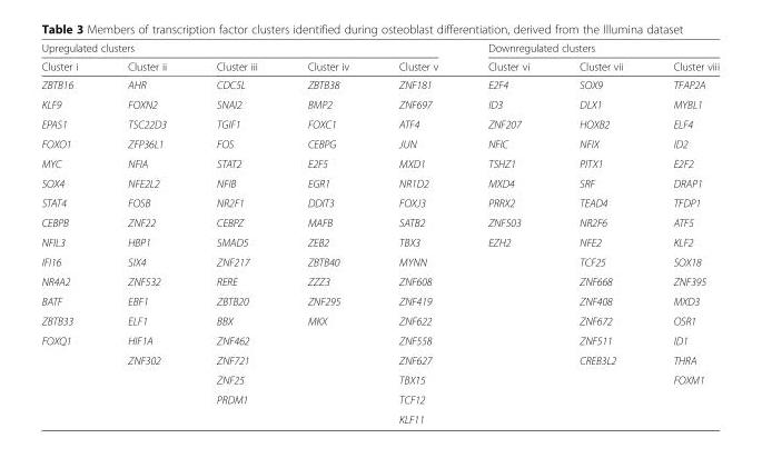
<table><thead><tr><td colspan="5">Upregulated clusters</td><td colspan="3">Downregulated clusters</td></tr><tr><td>Cluster i</td><td>Cluster ii</td><td>Cluster iii</td><td>Cluster iv</td><td>Cluster v</td><td>Cluster vi</td><td>Cluster vii</td><td>Cluster viii</td></tr></thead><tbody><tr><td>ZBTB16</td><td>AHR</td><td>CDC5L</td><td>ZBTB38</td><td>ZNF181</td><td>E2F4</td><td>SOX9</td><td>TFAP2A</td></tr><tr><td>KLF9</td><td>FOXN2</td><td>SNAI2</td><td>BMP2</td><td>ZNF697</td><td>ID3</td><td>DLX1</td><td>MYBL1</td></tr><tr><td>EPAS1</td><td>TSC22D3</td><td>TGIF1</td><td>FOXC1</td><td>ATF4</td><td>ZNF207</td><td>HOXB2</td><td>ELF4</td></tr><tr><td>FOXO1</td><td>ZFP36L1</td><td>FOS</td><td>CEBPG</td><td>JUN</td><td>NFIC</td><td>NFIX</td><td>ID2</td></tr><tr><td>MYC</td><td>NFIA</td><td>STAT2</td><td>E2F5</td><td>MXD1</td><td>TSHZ1</td><td>PITX1</td><td>E2F2</td></tr><tr><td>SOX4</td><td>NFE2L2</td><td>NFIB</td><td>EGR1</td><td>NR1D2</td><td>MXD4</td><td>SRF</td><td>DRAP1</td></tr><tr><td>STAT4</td><td>FOSB</td><td>NR2F1</td><td>DDIT3</td><td>FOXJ3</td><td>PRRX2</td><td>TEAD4</td><td>TFDP1</td></tr><tr><td>CEBPB</td><td>ZNF22</td><td>CEBPZ</td><td>MAFB</td><td>SATB2</td><td>ZNF503</td><td>NR2F6</td><td>ATF5</td></tr><tr><td>NFIL3</td><td>HBP1</td><td>SMAD5</td><td>ZEB2</td><td>TBX3</td><td>EZH2</td><td>NFE2</td><td>KLF2</td></tr><tr><td>IFI16</td><td>SIX4</td><td>ZNF217</td><td>ZBTB40</td><td>MYNN</td><td></td><td>TCF25</td><td>SOX18</td></tr><tr><td>NR4A2</td><td>ZNF532</td><td>RERE</td><td>ZZZ3</td><td>ZNF608</td><td></td><td>ZNF668</td><td>ZNF395</td></tr><tr><td>BATF</td><td>EBF1</td><td>ZBTB20</td><td>ZNF295</td><td>ZNF419</td><td></td><td>ZNF408</td><td>MXD3</td></tr><tr><td>ZBTB33</td><td>ELF1</td><td>BBX</td><td>MKX</td><td>ZNF622</td><td></td><td>ZNF672</td><td>OSR1</td></tr><tr><td rowspan="5">FOXQ1</td><td>HIF1A</td><td>ZNF462</td><td></td><td>ZNF558</td><td></td><td>ZNF511</td><td>ID1</td></tr><tr><td>ZNF302</td><td>ZNF721</td><td></td><td>ZNF627</td><td></td><td>CREB3L2</td><td>THRA</td></tr><tr><td></td><td>ZNF25</td><td></td><td>TBX15</td><td></td><td></td><td>FOXM1</td></tr><tr><td></td><td>PRDM1</td><td></td><td>TCF12</td><td></td><td></td><td></td></tr><tr><td></td><td></td><td></td><td>KLF11</td><td></td><td></td><td></td></tr></tbody></table>